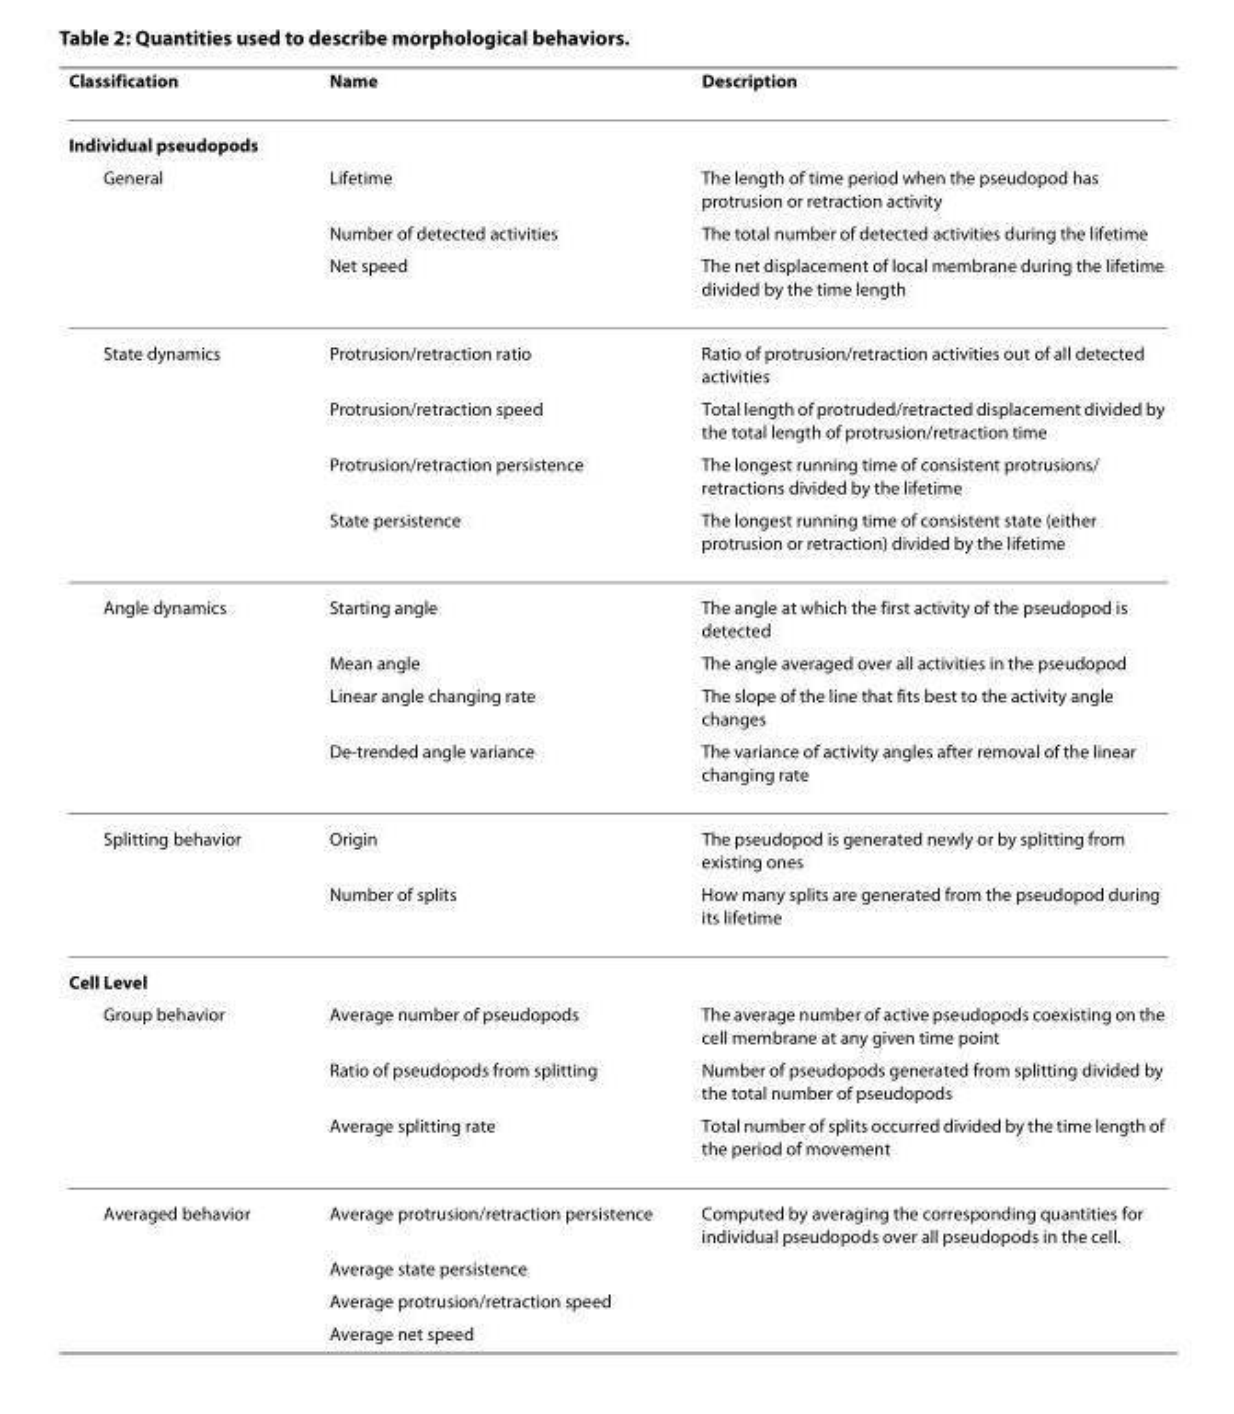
<table><thead><tr><td>Classification</td><td>Name</td><td>Description</td></tr></thead><tbody><tr><td colspan="3">Individual pseudopods</td></tr><tr><td rowspan="3">General</td><td>Lifetime</td><td>The length of time period when the pseudopod has protrusion or retraction activity</td></tr><tr><td>Number of detected activities</td><td>The total number of detected activities during the lifetime</td></tr><tr><td>Net speed</td><td>The net displacement of local membrane during the lifetime divided by the time length</td></tr><tr><td rowspan="4">State dynamics</td><td>Protrusion/retraction ratio</td><td>Ratio of protrusion/retraction activities out of all detected activities</td></tr><tr><td>Protrusion/retraction speed</td><td>Total length of protruded/retracted displacement divided by the total length of protrusion/retraction time</td></tr><tr><td>Protrusion/retraction persistence</td><td>The longest running time of consistent protrusions/ retractions divided by the lifetime</td></tr><tr><td>State persistence</td><td>The longest running time of consistent state (either protrusion or retraction) divided by the lifetime</td></tr><tr><td rowspan="4">Angle dynamics</td><td>Starting angle</td><td>The angle at which the first activity of the pseudopod is detected</td></tr><tr><td>Mean angle</td><td>The angle averaged over all activities in the pseudopod</td></tr><tr><td>Linear angle changing rate</td><td>The slope of the line that fits best to the activity angle changes</td></tr><tr><td>De-trended angle variance</td><td>The variance of activity angles after removal of the linear changing rate</td></tr><tr><td rowspan="2">Splitting behavior</td><td>Origin</td><td>The pseudopod is generated newly or by splitting from existing ones</td></tr><tr><td>Number of splits</td><td>How many splits are generated from the pseudopod during its lifetime</td></tr><tr><td colspan="3">Cell Level</td></tr><tr><td rowspan="3">Group behavior</td><td>Average number of pseudopods</td><td>The average number of active pseudopods coexisting on the cell membrane at any given time point</td></tr><tr><td>Ratio of pseudopods from splitting</td><td>Number of pseudopods generated from splitting divided by the total number of pseudopods</td></tr><tr><td>Average splitting rate</td><td>Total number of splits occurred divided by the time length of the period of movement</td></tr><tr><td rowspan="4">Averaged behavior</td><td>Average protrusion/retraction persistence</td><td>Computed by averaging the corresponding quantities for individual pseudopods over all pseudopods in the cell.</td></tr><tr><td>Average state persistence</td><td></td></tr><tr><td>Average protrusion/retraction speed</td><td></td></tr><tr><td>Average net speed</td><td></td></tr></tbody></table>